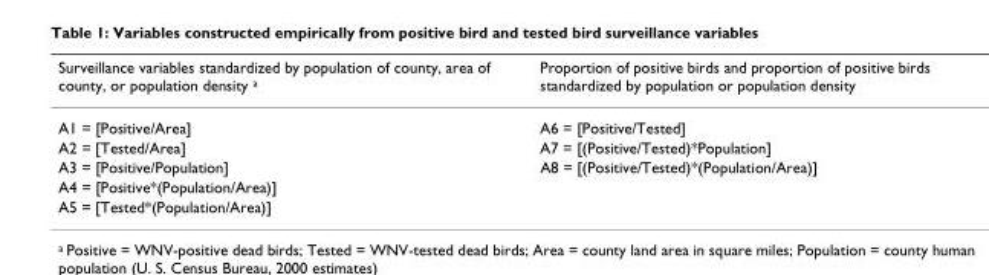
<table><thead><tr><td>Surveillance variables standardized by population of county, area of county, or population density <sup>a</sup></td><td>Proportion of positive birds and proportion of positive birds standardized by population or population density</td></tr></thead><tbody><tr><td>A1 = [Positive/Area]</td><td>A6 = [Positive/Tested]</td></tr><tr><td>A2 = [Tested/Area]</td><td>A7 = [(Positive/Tested)*Population]</td></tr><tr><td>A3 = [Positive/Population]</td><td>A8 = [(Positive/Tested)*(Population/Area)]</td></tr><tr><td colspan="2">A4 = [Positive*(Population/Area)]</td></tr><tr><td>A5 = [Tested*(Population/Area)]</td><td></td></tr></tbody></table>